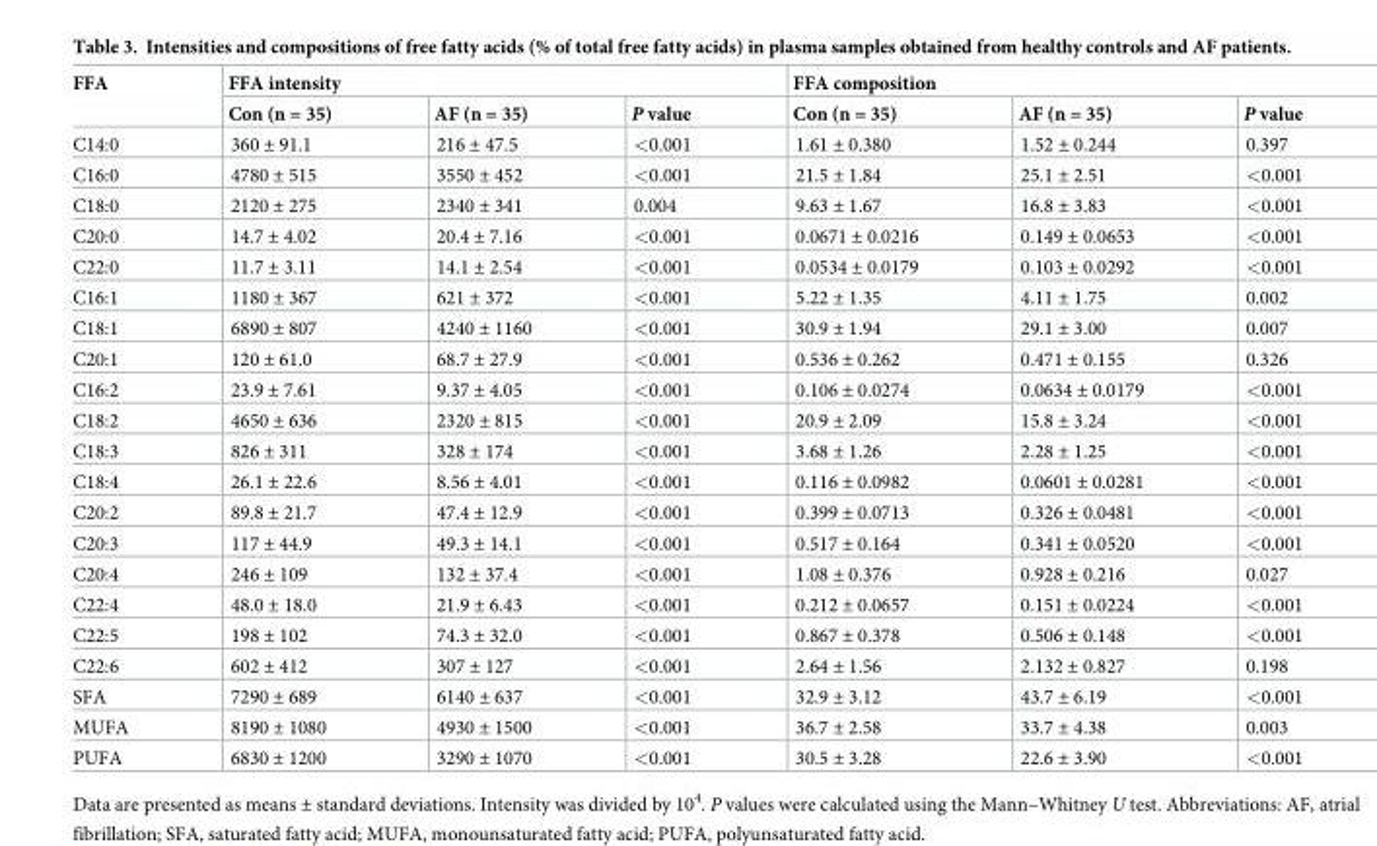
<table><thead><tr><td rowspan="2">FFA</td><td colspan="3">FFA intensity</td><td colspan="3">FFA composition</td></tr><tr><td>Con (n = 35)</td><td>AF (n = 35)</td><td>P value</td><td>Con (n = 35)</td><td>AF (n = 35)</td><td>P value</td></tr></thead><tbody><tr><td>C14:0</td><td>360 ± 91.1</td><td>216 ± 47.5</td><td>&lt;0.001</td><td>1.61 ± 0.380</td><td>1.52 ± 0.244</td><td>0.397</td></tr><tr><td>C16:0</td><td>4780 ± 515</td><td>3550 ± 452</td><td>&lt;0.001</td><td>21.5 ± 1.84</td><td>25.1 ± 2.51</td><td>&lt;0.001</td></tr><tr><td>C18:0</td><td>2120 ± 275</td><td>2340 ± 341</td><td>0.004</td><td>9.63 ± 1.67</td><td>16.8 ± 3.83</td><td>&lt;0.001</td></tr><tr><td>C20:0</td><td>14.7 ± 4.02</td><td>20.4 ± 7.16</td><td>&lt;0.001</td><td>0.0671 ± 0.0216</td><td>0.149 ± 0.0653</td><td>&lt;0.001</td></tr><tr><td>C22:0</td><td>11.7 ± 3.11</td><td>14.1 ± 2.54</td><td>&lt;0.001</td><td>0.0534 ± 0.0179</td><td>0.103 ± 0.0292</td><td>&lt;0.001</td></tr><tr><td>C16:1</td><td>1180 ± 367</td><td>621 ± 372</td><td>&lt;0.001</td><td>5.22 ± 1.35</td><td>4.11 ± 1.75</td><td>0.002</td></tr><tr><td>C18:1</td><td>6890 ± 807</td><td>4240 ± 1160</td><td>&lt;0.001</td><td>30.9 ± 1.94</td><td>29.1 ± 3.00</td><td>0.007</td></tr><tr><td>C20:1</td><td>120 ± 61.0</td><td>68.7 ± 27.9</td><td>&lt;0.001</td><td>0.536 ± 0.262</td><td>0.471 ± 0.155</td><td>0.326</td></tr><tr><td>C16:2</td><td>23.9 ± 7.61</td><td>9.37 ± 4.05</td><td>&lt;0.001</td><td>0.106 ± 0.0274</td><td>0.0634 ± 0.0179</td><td>&lt;0.001</td></tr><tr><td>C18:2</td><td>4650 ± 636</td><td>2320 ± 815</td><td>&lt;0.001</td><td>20.9 ± 2.09</td><td>15.8 ± 3.24</td><td>&lt;0.001</td></tr><tr><td>C18:3</td><td>826 ± 311</td><td>328 ± 174</td><td>&lt;0.001</td><td>3.68 ± 1.26</td><td>2.28 ± 1.25</td><td>&lt;0.001</td></tr><tr><td>C18:4</td><td>26.1 ± 22.6</td><td>8.56 ± 4.01</td><td>&lt;0.001</td><td>0.116 ± 0.0982</td><td>0.0601 ± 0.0281</td><td>&lt;0.001</td></tr><tr><td>C20:2</td><td>89.8 ± 21.7</td><td>47.4 ± 12.9</td><td>&lt;0.001</td><td>0.399 ± 0.0713</td><td>0.326 ± 0.0481</td><td>&lt;0.001</td></tr><tr><td>C20:3</td><td>117 ± 44.9</td><td>49.3 ± 14.1</td><td>&lt;0.001</td><td>0.517 ± 0.164</td><td>0.341 ± 0.0520</td><td>&lt;0.001</td></tr><tr><td>C20:4</td><td>246 ± 109</td><td>132 ± 37.4</td><td>&lt;0.001</td><td>1.08 ± 0.376</td><td>0.928 ± 0.216</td><td>0.027</td></tr><tr><td>C22:4</td><td>48.0 ± 18.0</td><td>21.9 ± 6.43</td><td>&lt;0.001</td><td>0.212 ± 0.0657</td><td>0.151 ± 0.0224</td><td>&lt;0.001</td></tr><tr><td>C22:5</td><td>198 ± 102</td><td>74.3 ± 32.0</td><td>&lt;0.001</td><td>0.867 ± 0.378</td><td>0.506 ± 0.148</td><td>&lt;0.001</td></tr><tr><td>C22:6</td><td>602 ± 412</td><td>307 ± 127</td><td>&lt;0.001</td><td>2.64 ± 1.56</td><td>2.132 ± 0.827</td><td>0.198</td></tr><tr><td>SFA</td><td>7290 ± 689</td><td>6140 ± 637</td><td>&lt;0.001</td><td>32.9 ± 3.12</td><td>43.7 ± 6.19</td><td>&lt;0.001</td></tr><tr><td>MUFA</td><td>8190 ± 1080</td><td>4930 ± 1500</td><td>&lt;0.001</td><td>36.7 ± 2.58</td><td>33.7 ± 4.38</td><td>0.003</td></tr><tr><td>PUFA</td><td>6830 ± 1200</td><td>3290 ± 1070</td><td>&lt;0.001</td><td>30.5 ± 3.28</td><td>22.6 ± 3.90</td><td>&lt;0.001</td></tr></tbody></table>